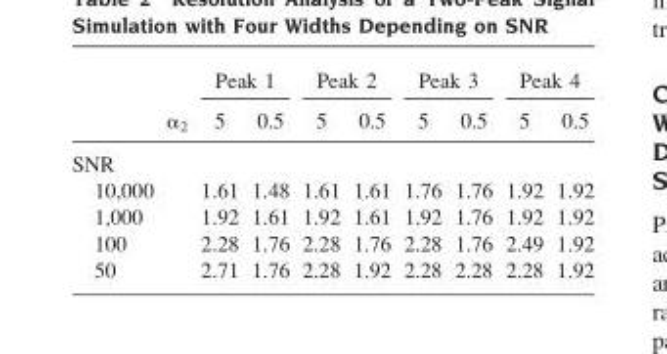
<table><thead><tr><td rowspan="2"></td><td rowspan="2">α<sub>2</sub></td><td colspan="2">Peak 1</td><td colspan="2">Peak 2</td><td colspan="2">Peak 3</td><td colspan="2">Peak 4</td></tr><tr><td>5</td><td>0.5</td><td>5</td><td>0.5</td><td>5</td><td>0.5</td><td>5</td><td>0.5</td></tr></thead><tbody><tr><td colspan="10">SNR</td></tr><tr><td>10,000</td><td></td><td>1.61</td><td>1.48</td><td>1.61</td><td>1.61</td><td>1.76</td><td>1.76</td><td>1.92</td><td>1.92</td></tr><tr><td>1,000</td><td></td><td>1.92</td><td>1.61</td><td>1.92</td><td>1.61</td><td>1.92</td><td>1.76</td><td>1.92</td><td>1.92</td></tr><tr><td>100</td><td></td><td>2.28</td><td>1.76</td><td>2.28</td><td>1.76</td><td>2.28</td><td>1.76</td><td>2.49</td><td>1.92</td></tr><tr><td>50</td><td></td><td>2.71</td><td>1.76</td><td>2.28</td><td>1.92</td><td>2.28</td><td>2.28</td><td>2.28</td><td>1.92</td></tr></tbody></table>